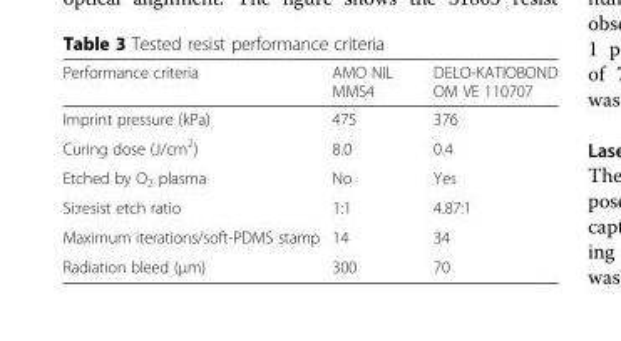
<table><thead><tr><td>Performance criteria</td><td>AMO NIL MMS4</td><td>DELO-KATIOBOND OM VE 110707</td></tr></thead><tbody><tr><td>Imprint pressure (kPa)</td><td>475</td><td>376</td></tr><tr><td>Curing dose (J/cm<sup>2</sup>)</td><td>8.0</td><td>0.4</td></tr><tr><td>Etched by O<sub>2</sub> plasma</td><td>No</td><td>Yes</td></tr><tr><td>Si:resist etch ratio</td><td>1:1</td><td>4.87:1</td></tr><tr><td>Maximum iterations/soft-PDMS stamp</td><td>14</td><td>34</td></tr><tr><td>Radiation bleed (μm)</td><td>300</td><td>70</td></tr></tbody></table>